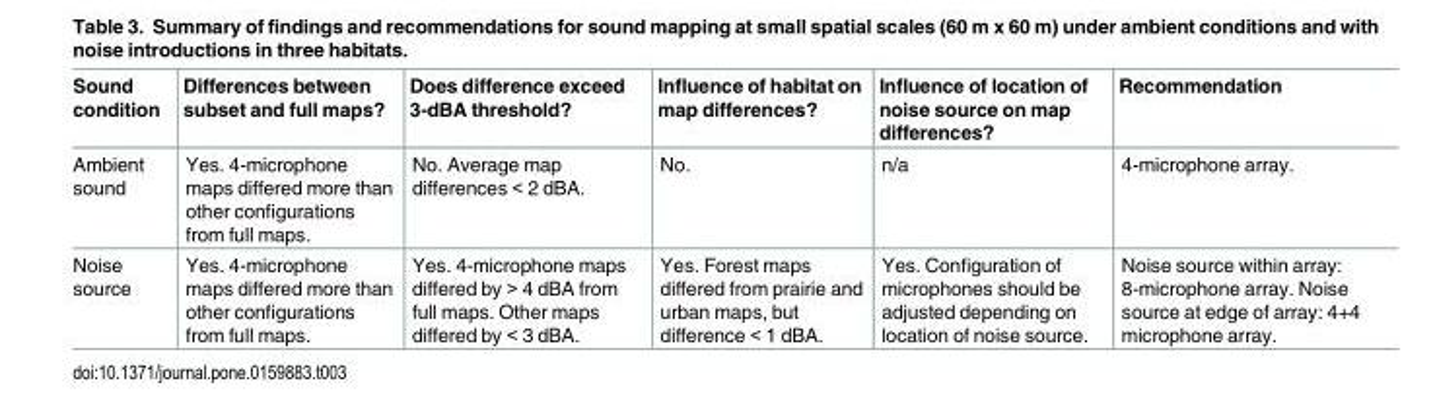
<table><thead><tr><td>Sound condition</td><td>Differences between subset and full maps?</td><td>Does difference exceed 3-dBA threshold?</td><td>Influence of habitat on map differences?</td><td>Influence of location of noise source on map differences?</td><td>Recommendation</td></tr></thead><tbody><tr><td>Ambient sound</td><td>Yes. 4-microphone maps differed more than other configurations from full maps.</td><td>No. Average map differences &lt; 2 dBA.</td><td>No.</td><td>n/a</td><td>4-microphone array.</td></tr><tr><td>Noise source</td><td>Yes. 4-microphone maps differed more than other configurations from full maps.</td><td>Yes. 4-microphone maps differed by &gt; 4 dBA from full maps. Other maps differed by &lt; 3 dBA.</td><td>Yes. Forest maps differed from prairie and urban maps, but difference &lt; 1 dBA.</td><td>Yes. Configuration of microphones should be adjusted depending on location of noise source.</td><td>Noise source within array: 8-microphone array. Noise source at edge of array: 4+4 microphone array.</td></tr></tbody></table>